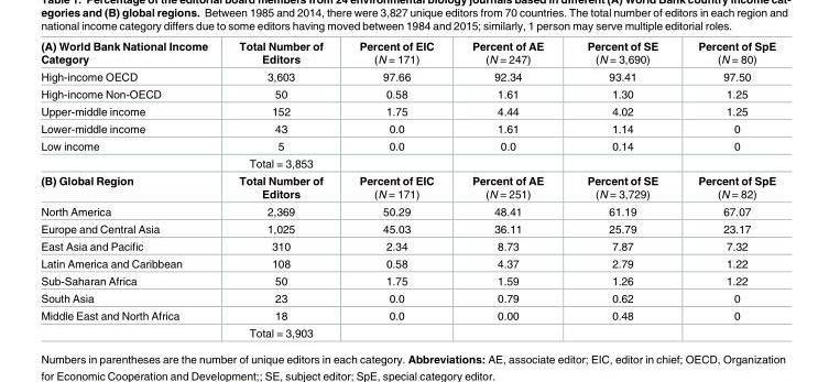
<table><tbody><tr><td>(A) World Bank National Income Category</td><td>Total Number of Editors</td><td>Percent of EIC (N = 171)</td><td>Percent of AE (N = 247)</td><td>Percent of SE (N = 3,690)</td><td>Percent of SpE (N = 80)</td></tr><tr><td>High-income OECD</td><td>3,603</td><td>97.66</td><td>92.34</td><td>93.41</td><td>97.50</td></tr><tr><td>High-income Non-OECD</td><td>50</td><td>0.58</td><td>1.61</td><td>1.30</td><td>1.25</td></tr><tr><td>Upper-middle income</td><td>152</td><td>1.75</td><td>4.44</td><td>4.02</td><td>1.25</td></tr><tr><td>Lower-middle income</td><td>43</td><td>0.0</td><td>1.61</td><td>1.14</td><td>0</td></tr><tr><td rowspan="2">Low income</td><td>5</td><td>0.0</td><td>0.0</td><td>0.14</td><td>0</td></tr><tr><td>Total = 3,853</td><td></td><td></td><td></td><td></td></tr><tr><td>(B) Global Region</td><td>Total Number of Editors</td><td>Percent of EIC (N = 171)</td><td>Percent of AE (N = 251)</td><td>Percent of SE (N = 3,729)</td><td>Percent of SpE (N = 82)</td></tr><tr><td>North America</td><td>2,369</td><td>50.29</td><td>48.41</td><td>61.19</td><td>67.07</td></tr><tr><td>Europe and Central Asia</td><td>1,025</td><td>45.03</td><td>36.11</td><td>25.79</td><td>23.17</td></tr><tr><td>East Asia and Pacific</td><td>310</td><td>2.34</td><td>8.73</td><td>7.87</td><td>7.32</td></tr><tr><td>Latin America and Caribbean</td><td>108</td><td>0.58</td><td>4.37</td><td>2.79</td><td>1.22</td></tr><tr><td>Sub-Saharan Africa</td><td>50</td><td>1.75</td><td>1.59</td><td>1.26</td><td>1.22</td></tr><tr><td>South Asia</td><td>23</td><td>0.0</td><td>0.79</td><td>0.62</td><td>0</td></tr><tr><td rowspan="2">Middle East and North Africa</td><td>18</td><td>0.0</td><td>0.00</td><td>0.48</td><td>0</td></tr><tr><td>Total = 3,903</td><td></td><td></td><td></td><td></td></tr></tbody></table>